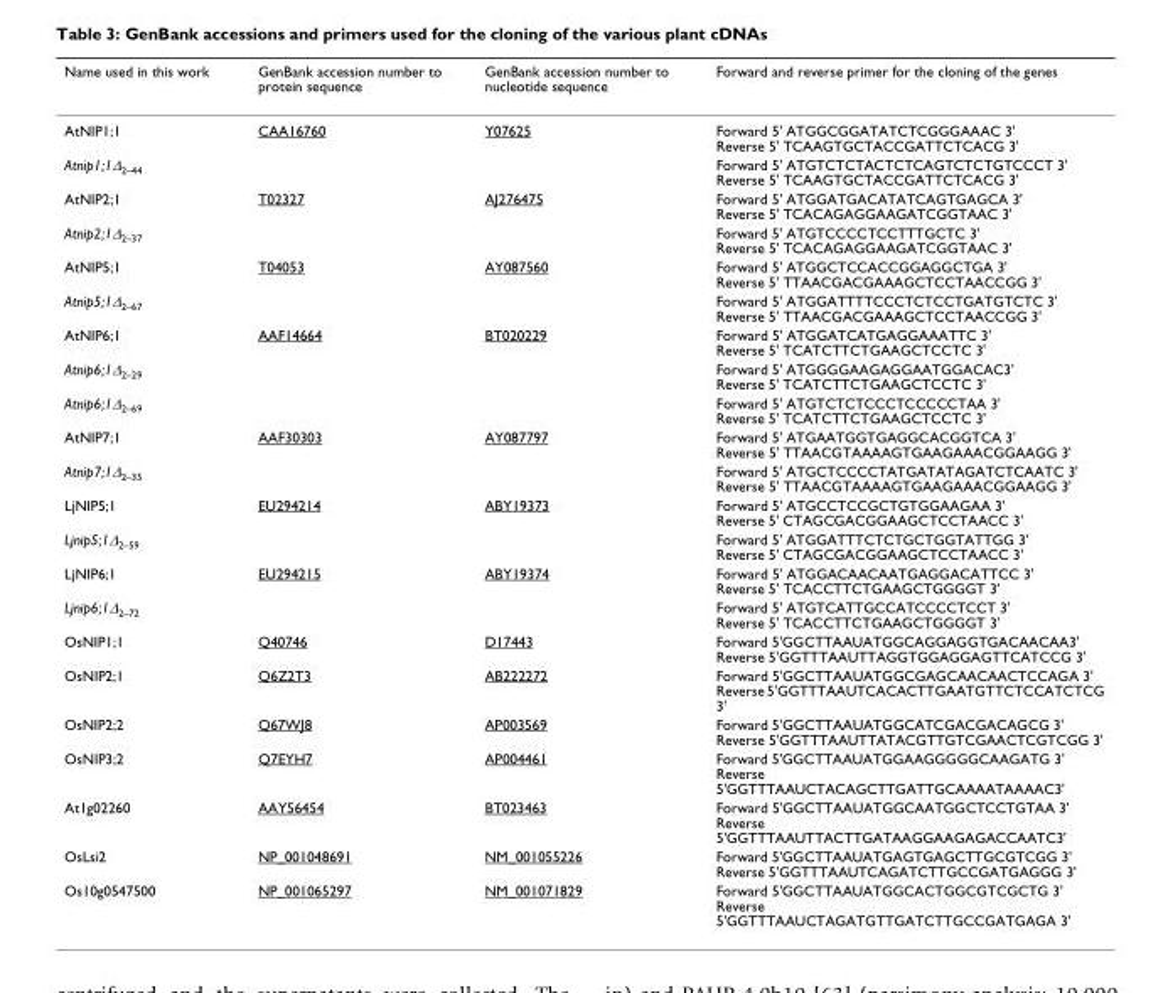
<table><thead><tr><td>Name used in this work</td><td>GenBank accession number to protein sequence</td><td>GenBank accession number to nucleotide sequence</td><td>Forward and reverse primer for the cloning of the genes</td></tr></thead><tbody><tr><td>AtNIP1;1</td><td>CAA16760</td><td>Y07625</td><td>Forward 5&#x27; ATGGCGGATATCTCGGGAAAC 3&#x27; Reverse 5&#x27; TCAAGTGCTACCGATTCTCACG 3&#x27;</td></tr><tr><td>Atnip1;1Δ<sub>2–44</sub></td><td></td><td></td><td>Forward 5&#x27; ATGTCTCTACTCTCAGTCTCTGTCCCT 3&#x27; Reverse 5&#x27; TCAAGTGCTACCGATTCTCACG 3&#x27;</td></tr><tr><td>AtNIP2;1</td><td>T02327</td><td>AJ276475</td><td>Forward 5&#x27; ATGGATGACATATCAGTGAGCA 3&#x27; Reverse 5&#x27; TCACAGAGGAAGATCGGTAAC 3&#x27;</td></tr><tr><td>Atnip2;1Δ<sub>2–37</sub></td><td></td><td></td><td>Forward 5&#x27; ATGTCCCCTCCTTTGCTC 3&#x27; Reverse 5&#x27; TCACAGAGGAAGATCGGTAAC 3&#x27;</td></tr><tr><td>AtNIP5;1</td><td>T04053</td><td>AY087560</td><td>Forward 5&#x27; ATGGCTCCACCGGAGGCTGA 3&#x27; Reverse 5&#x27; TTAACGACGAAAGCTCCTAACCGG 3&#x27;</td></tr><tr><td>Atnip5;1Δ<sub>2–67</sub></td><td></td><td></td><td>Forward 5&#x27; ATGGATTTTCCCTCTCCTGATGTCTC 3&#x27; Reverse 5&#x27; TTAACGACGAAAGCTCCTAACCGG 3&#x27;</td></tr><tr><td>AtNIP6;1</td><td>AAF14664</td><td>BT020229</td><td>Forward 5&#x27; ATGGATCATGAGGAAATTC 3&#x27; Reverse 5&#x27; TCATCTTCTGAAGCTCCTC 3&#x27;</td></tr><tr><td>Atnip6;1Δ<sub>2–29</sub></td><td></td><td></td><td>Forward 5&#x27; ATGGGGAAGAGGAATGGACAC3&#x27; Reverse 5&#x27; TCATCTTCTGAAGCTCCTC 3&#x27;</td></tr><tr><td>Atnip6;1Δ<sub>2–69</sub></td><td></td><td></td><td>Forward 5&#x27; ATGTCTCTCCCTCCCCCTAA 3&#x27; Reverse 5&#x27; TCATCTTCTGAAGCTCCTC 3&#x27;</td></tr><tr><td>AtNIP7;1</td><td>AAF30303</td><td>AY087797</td><td>Forward 5&#x27; ATGAATGGTGAGGCACGGTCA 3&#x27; Reverse 5&#x27; TTAACGTAAAAGTGAAGAAACGGAAGG 3&#x27;</td></tr><tr><td>Atnip7;1Δ<sub>2–35</sub></td><td></td><td></td><td>Forward 5&#x27; ATGCTCCCCTATGATATAGATCTCAATC 3&#x27; Reverse 5&#x27; TTAACGTAAAAGTGAAGAAACGGAAGG 3&#x27;</td></tr><tr><td>LjNIP5;1</td><td>EU294214</td><td>ABY19373</td><td>Forward 5&#x27; ATGCCTCCGCTGTGGAAGAA 3&#x27; Reverse 5&#x27; CTAGCGACGGAAGCTCCTAACC 3&#x27;</td></tr><tr><td>Ljnip5;1Δ<sub>2–59</sub></td><td></td><td></td><td>Forward 5&#x27; ATGGATTTCTCTGCTGGTATTGG 3&#x27; Reverse 5&#x27; CTAGCGACGGAAGCTCCTAACC 3&#x27;</td></tr><tr><td>LjNIP6;1</td><td>EU294215</td><td>ABY19374</td><td>Forward 5&#x27; ATGGACAACAATGAGGACATTCC 3&#x27; Reverse 5&#x27; TCACCTTCTGAAGCTGGGGT 3&#x27;</td></tr><tr><td>Ljnip6;1Δ<sub>2–72</sub></td><td></td><td></td><td>Forward 5&#x27; ATGTCATTGCCATCCCCTCCT 3&#x27; Reverse 5&#x27; TCACCTTCTGAAGCTGGGGT 3&#x27;</td></tr><tr><td>OsNIP1;1</td><td>Q40746</td><td>D17443</td><td>Forward 5&#x27;GGCTTAAUATGGCAGGAGGTGACAACAA3&#x27; Reverse 5&#x27;GGTTTAAUTTAGGTGGAGGAGTTCATCCG 3&#x27;</td></tr><tr><td>OsNIP2;1</td><td>Q6Z2T3</td><td>AB222272</td><td>Forward 5&#x27;GGCTTAAUATGGCGAGCAACAACTCCAGA 3&#x27; Reverse 5&#x27;GGTTTAAUTCACACTTGAATGTTCTCCATCTCG 3&#x27;</td></tr><tr><td>OsNIP2;2</td><td>Q67WJ8</td><td>AP003569</td><td>Forward 5&#x27;GGCTTAAUATGGCATCGACGACAGCG 3&#x27; Reverse 5&#x27;GGTTTAAUTTATACGTTGTCGAACTCGTCGG 3&#x27;</td></tr><tr><td>OsNIP3;2</td><td>Q7EYH7</td><td>AP004461</td><td>Forward 5&#x27;GGCTTAAUATGGAAGGGGGCAAGATG 3&#x27; Reverse 5&#x27;GGTTTAAUCTACAGCTTGATTGCAAAATAAAAC3&#x27;</td></tr><tr><td>At1g02260</td><td>AAY56454</td><td>BT023463</td><td>Forward 5&#x27;GGCTTAAUATGGCAATGGCTCCTGTAA 3&#x27; Reverse 5&#x27;GGTTTAAUTTACTTGATAAGGAAGAGACCAATC3&#x27;</td></tr><tr><td>OsLsi2</td><td>NP_001048691</td><td>NM_001055226</td><td>Forward 5&#x27;GGCTTAAUATGAGTGAGCTTGCGTCGG 3&#x27; Reverse 5&#x27;GGTTTAAUTCAGATCTTGCCGATGAGGG 3&#x27;</td></tr><tr><td>Os10g0547500</td><td>NP_001065297</td><td>NM_001071829</td><td>Forward 5&#x27;GGCTTAAUATGGCACTGGCGTCGCTG 3&#x27; Reverse 5&#x27;GGTTTAAUCTAGATGTTGATCTTGCCGATGAGA 3&#x27;</td></tr></tbody></table>